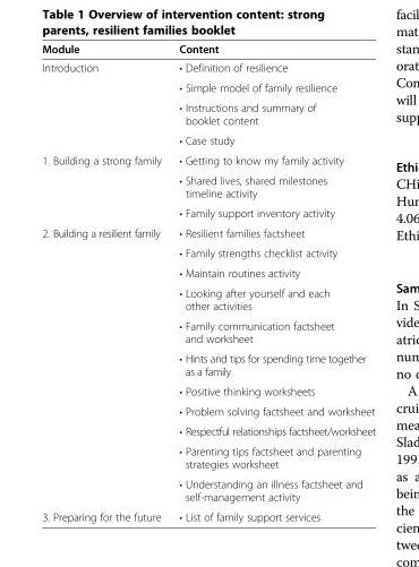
<table><thead><tr><td>Module</td><td>Content</td></tr></thead><tbody><tr><td rowspan="4">Introduction</td><td>• Definition of resilience</td></tr><tr><td>• Simple model of family resilience</td></tr><tr><td>• Instructions and summary of booklet content</td></tr><tr><td>• Case study</td></tr><tr><td rowspan="3">1. Building a strong family</td><td>• Getting to know my family activity</td></tr><tr><td>• Shared lives, shared milestones timeline activity</td></tr><tr><td>• Family support inventory activity</td></tr><tr><td rowspan="11">2. Building a resilient family</td><td>• Resilient families factsheet</td></tr><tr><td>• Family strengths checklist activity</td></tr><tr><td>• Maintain routines activity</td></tr><tr><td>• Looking after yourself and each other activities</td></tr><tr><td>• Family communication factsheet and worksheet</td></tr><tr><td>• Hints and tips for spending time together as a family</td></tr><tr><td>• Positive thinking worksheets</td></tr><tr><td>• Problem solving factsheet and worksheet</td></tr><tr><td>• Respectful relationships factsheet/worksheet</td></tr><tr><td>• Parenting tips factsheet and parenting strategies worksheet</td></tr><tr><td>• Understanding an illness factsheet and self-management activity</td></tr><tr><td>3. Preparing for the future</td><td>• List of family support services</td></tr></tbody></table>